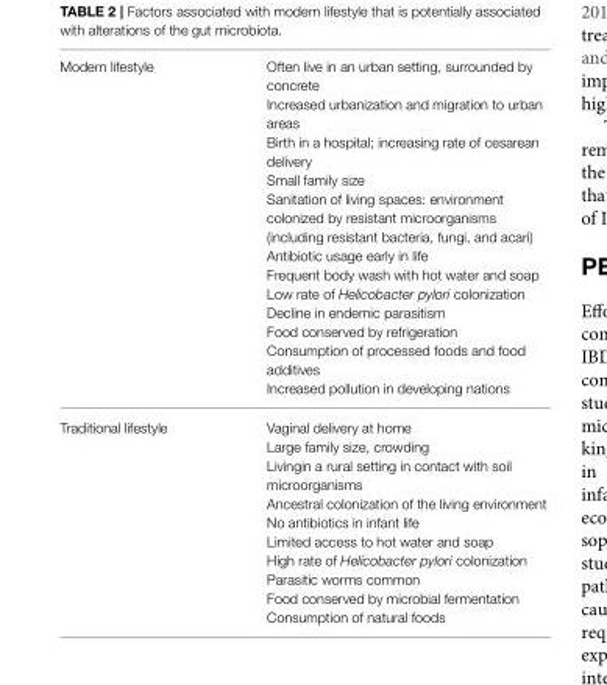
<table><tbody><tr><td>Modern lifestyle</td><td>Often live in an urban setting, surrounded by concrete Increased urbanization and migration to urban areas Birth in a hospital; increasing rate of cesarean delivery Small family size Sanitation of living spaces: environment colonized by resistant microorganisms (including resistant bacteria, fungi, and acari) Antibiotic usage early in life Frequent body wash with hot water and soap Low rate of Helicobacter pylori colonization Decline in endemic parasitism Food conserved by refrigeration Consumption of processed foods and food additives Increased pollution in developing nations</td></tr><tr><td>Traditional lifestyle</td><td>Vaginal delivery at home Large family size, crowding Livingin a rural setting in contact with soil microorganisms Ancestral colonization of the living environment No antibiotics in infant life Limited access to hot water and soap High rate of Helicobacter pylori colonization Parasitic worms common Food conserved by microbial fermentation Consumption of natural foods</td></tr></tbody></table>